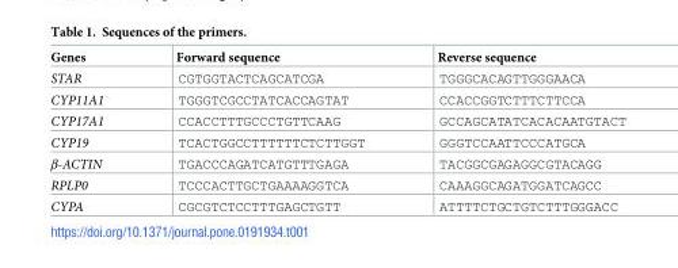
<table><thead><tr><td>Genes</td><td>Forward sequence</td><td>Reverse sequence</td></tr></thead><tbody><tr><td>STAR</td><td>CGTGGTACTCAGCATCGA</td><td>TGGGCACAGTTGGGAACA</td></tr><tr><td>CYP11A1</td><td>TGGGTCGCCTATCACCAGTAT</td><td>CCACCGGTCTTTCTTCCA</td></tr><tr><td>CYP17A1</td><td>CCACCTTTGCCCTGTTCAAG</td><td>GCCAGCATATCACACAATGTACT</td></tr><tr><td>CYP19</td><td>TCACTGGCCTTTTTTCTCTTGGT</td><td>GGGTCCAATTCCCATGCA</td></tr><tr><td>β-ACTIN</td><td>TGACCCAGATCATGTTTGAGA</td><td>TACGGCGAGAGGCGTACAGG</td></tr><tr><td>RPLP0</td><td>TCCCACTTGCTGAAAAGGTCA</td><td>CAAAGGCAGATGGATCAGCC</td></tr><tr><td>CYPA</td><td>CGCGTCTCCTTTGAGCTGTT</td><td>ATTTTCTGCTGTCTTTGGGACC</td></tr></tbody></table>